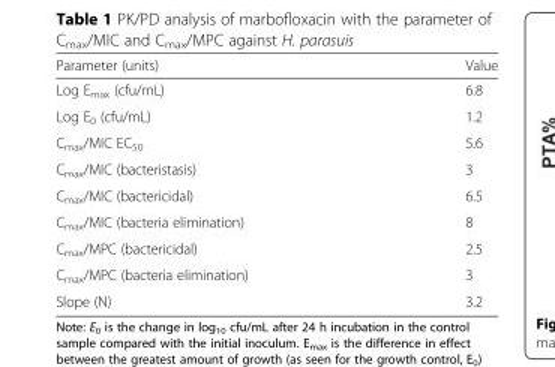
<table><thead><tr><td>Parameter (units)</td><td>Value</td></tr></thead><tbody><tr><td>Log E<sub>max</sub> (cfu/mL)</td><td>6.8</td></tr><tr><td>Log E<sub>0</sub> (cfu/mL)</td><td>1.2</td></tr><tr><td>C<sub>max</sub>/MIC EC<sub>50</sub></td><td>5.6</td></tr><tr><td>C<sub>max</sub>/MIC (bacteristasis)</td><td>3</td></tr><tr><td>C<sub>max</sub>/MIC (bactericidal)</td><td>6.5</td></tr><tr><td>C<sub>max</sub>/MIC (bacteria elimination)</td><td>8</td></tr><tr><td>C<sub>max</sub>/MPC (bactericidal)</td><td>2.5</td></tr><tr><td>C<sub>max</sub>/MPC (bacteria elimination)</td><td>3</td></tr><tr><td>Slope (N)</td><td>3.2</td></tr></tbody></table>